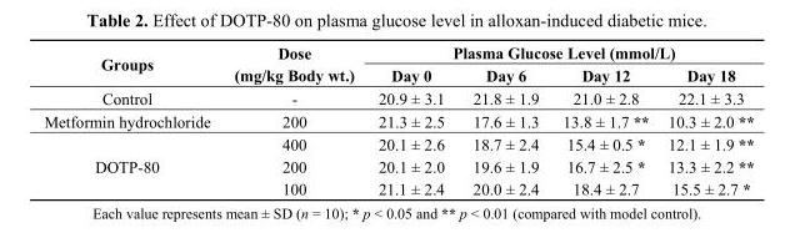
<table><thead><tr><td rowspan="2">Groups</td><td rowspan="2">Dose (mg/kg Body wt.)</td><td colspan="4">Plasma Glucose Level (mmol/L)</td></tr><tr><td>Day 0</td><td>Day 6</td><td>Day 12</td><td>Day 18</td></tr></thead><tbody><tr><td>Control</td><td>-</td><td>20.9 ± 3.1</td><td>21.8 ± 1.9</td><td>21.0 ± 2.8</td><td>22.1 ± 3.3</td></tr><tr><td>Metformin hydrochloride</td><td>200</td><td>21.3 ± 2.5</td><td>17.6 ± 1.3</td><td>13.8 ± 1.7 **</td><td>10.3 ± 2.0 **</td></tr><tr><td rowspan="3">DOTP-80</td><td>400</td><td>20.1 ± 2.6</td><td>18.7 ± 2.4</td><td>15.4 ± 0.5 *</td><td>12.1 ± 1.9 **</td></tr><tr><td>200</td><td>20.1 ± 2.0</td><td>19.6 ± 1.9</td><td>16.7 ± 2.5 *</td><td>13.3 ± 2.2 **</td></tr><tr><td>100</td><td>21.1 ± 2.4</td><td>20.0 ± 2.4</td><td>18.4 ± 2.7</td><td>15.5 ± 2.7 *</td></tr></tbody></table>